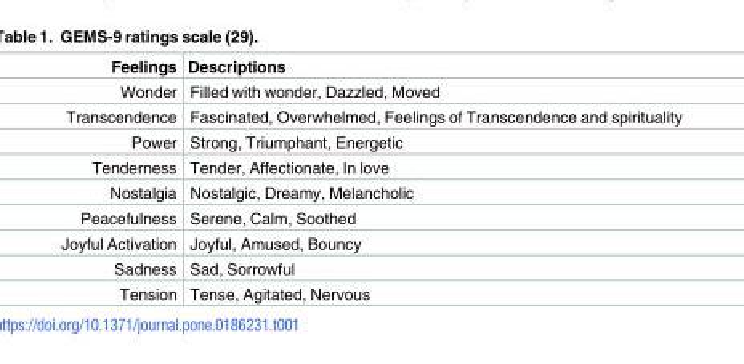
<table><thead><tr><td>Feelings</td><td>Descriptions</td></tr></thead><tbody><tr><td>Wonder</td><td>Filled with wonder, Dazzled, Moved</td></tr><tr><td>Transcendence</td><td>Fascinated, Overwhelmed, Feelings of Transcendence and spirituality</td></tr><tr><td>Power</td><td>Strong, Triumphant, Energetic</td></tr><tr><td>Tenderness</td><td>Tender, Affectionate, In love</td></tr><tr><td>Nostalgia</td><td>Nostalgic, Dreamy, Melancholic</td></tr><tr><td>Peacefulness</td><td>Serene, Calm, Soothed</td></tr><tr><td>Joyful Activation</td><td>Joyful, Amused, Bouncy</td></tr><tr><td>Sadness</td><td>Sad, Sorrowful</td></tr><tr><td>Tension</td><td>Tense, Agitated, Nervous</td></tr></tbody></table>